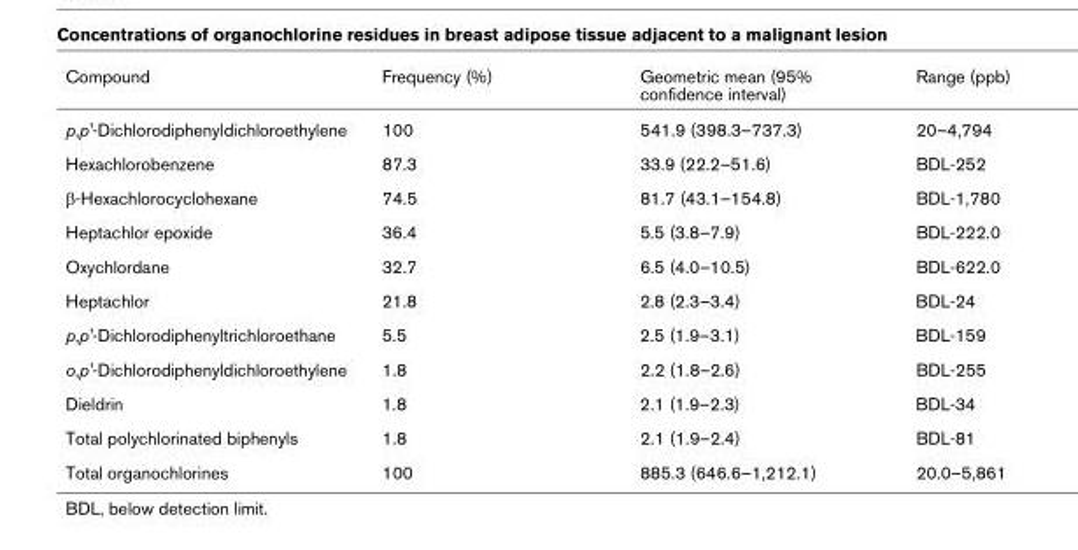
<table><thead><tr><td>Compound</td><td>Frequency (%)</td><td>Geometric mean (95% confidence interval)</td><td>Range (ppb)</td></tr></thead><tbody><tr><td>p,p&#x27;-Dichlorodiphenyldichloroethylene</td><td>100</td><td>541.9 (398.3–737.3)</td><td>20–4,794</td></tr><tr><td>Hexachlorobenzene</td><td>87.3</td><td>33.9 (22.2–51.6)</td><td>BDL-252</td></tr><tr><td>β-Hexachlorocyclohexane</td><td>74.5</td><td>81.7 (43.1–154.8)</td><td>BDL-1,780</td></tr><tr><td>Heptachlor epoxide</td><td>36.4</td><td>5.5 (3.8–7.9)</td><td>BDL-222.0</td></tr><tr><td>Oxychlordane</td><td>32.7</td><td>6.5 (4.0–10.5)</td><td>BDL-622.0</td></tr><tr><td>Heptachlor</td><td>21.8</td><td>2.8 (2.3–3.4)</td><td>BDL-24</td></tr><tr><td>p,p&#x27;-Dichlorodiphenyltrichloroethane</td><td>5.5</td><td>2.5 (1.9–3.1)</td><td>BDL-159</td></tr><tr><td>o,p&#x27;-Dichlorodiphenyldichloroethylene</td><td>1.8</td><td>2.2 (1.8–2.6)</td><td>BDL-255</td></tr><tr><td>Dieldrin</td><td>1.8</td><td>2.1 (1.9–2.3)</td><td>BDL-34</td></tr><tr><td>Total polychlorinated biphenyls</td><td>1.8</td><td>2.1 (1.9–2.4)</td><td>BDL-81</td></tr><tr><td>Total organochlorines</td><td>100</td><td>885.3 (646.6–1,212.1)</td><td>20.0–5,861</td></tr></tbody></table>